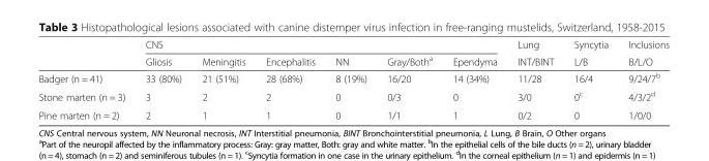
<table><thead><tr><td rowspan="2"></td><td colspan="6">CNS</td><td rowspan="2">Lung INT/BINT</td><td rowspan="2">Syncytia L/B</td><td rowspan="2">Inclusions B/L/O</td></tr><tr><td>Gliosis</td><td>Meningitis</td><td>Encephalitis</td><td>NN</td><td>Gray/Both<sup>a</sup></td><td>Ependyma</td></tr></thead><tbody><tr><td>Badger (n = 41)</td><td>33 (80%)</td><td>21 (51%)</td><td>28 (68%)</td><td>8 (19%)</td><td>16/20</td><td>14 (34%)</td><td>11/28</td><td>16/4</td><td>9/24/7<sup>b</sup></td></tr><tr><td>Stone marten (n = 3)</td><td>3</td><td>2</td><td>2</td><td>0</td><td>0/3</td><td>0</td><td>3/0</td><td>0<sup>c</sup></td><td>4/3/2<sup>d</sup></td></tr><tr><td>Pine marten (n = 2)</td><td>2</td><td>1</td><td>1</td><td>0</td><td>1/1</td><td>1</td><td>0/2</td><td>0</td><td>1/0/0</td></tr></tbody></table>